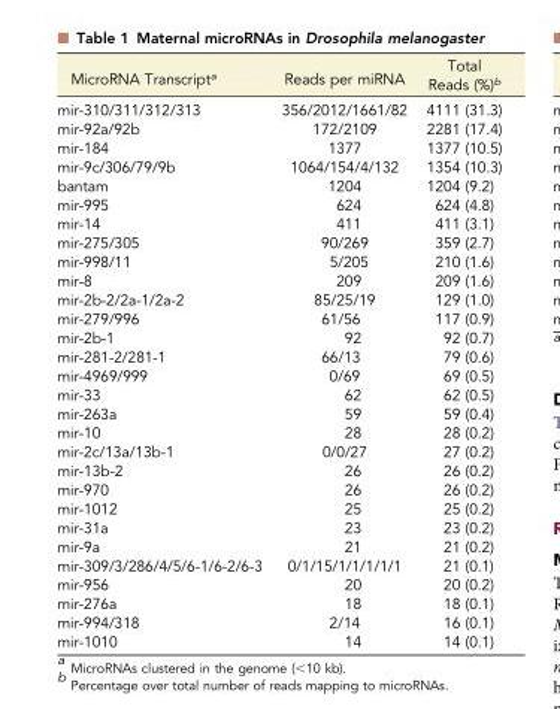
<table><thead><tr><td>MicroRNA Transcript<sup>a</sup></td><td>Reads per miRNA</td><td>Total Reads (%)<sup>b</sup></td></tr></thead><tbody><tr><td>mir-310/311/312/313</td><td>356/2012/1661/82</td><td>4111 (31.3)</td></tr><tr><td>mir-92a/92b</td><td>172/2109</td><td>2281 (17.4)</td></tr><tr><td>mir-184</td><td>1377</td><td>1377 (10.5)</td></tr><tr><td>mir-9c/306/79/9b</td><td>1064/154/4/132</td><td>1354 (10.3)</td></tr><tr><td>bantam</td><td>1204</td><td>1204 (9.2)</td></tr><tr><td>mir-995</td><td>624</td><td>624 (4.8)</td></tr><tr><td>mir-14</td><td>411</td><td>411 (3.1)</td></tr><tr><td>mir-275/305</td><td>90/269</td><td>359 (2.7)</td></tr><tr><td>mir-998/11</td><td>5/205</td><td>210 (1.6)</td></tr><tr><td>mir-8</td><td>209</td><td>209 (1.6)</td></tr><tr><td>mir-2b-2/2a-1/2a-2</td><td>85/25/19</td><td>129 (1.0)</td></tr><tr><td>mir-279/996</td><td>61/56</td><td>117 (0.9)</td></tr><tr><td>mir-2b-1</td><td>92</td><td>92 (0.7)</td></tr><tr><td>mir-281-2/281-1</td><td>66/13</td><td>79 (0.6)</td></tr><tr><td>mir-4969/999</td><td>0/69</td><td>69 (0.5)</td></tr><tr><td>mir-33</td><td>62</td><td>62 (0.5)</td></tr><tr><td>mir-263a</td><td>59</td><td>59 (0.4)</td></tr><tr><td>mir-10</td><td>28</td><td>28 (0.2)</td></tr><tr><td>mir-2c/13a/13b-1</td><td>0/0/27</td><td>27 (0.2)</td></tr><tr><td>mir-13b-2</td><td>26</td><td>26 (0.2)</td></tr><tr><td>mir-970</td><td>26</td><td>26 (0.2)</td></tr><tr><td>mir-1012</td><td>25</td><td>25 (0.2)</td></tr><tr><td>mir-31a</td><td>23</td><td>23 (0.2)</td></tr><tr><td>mir-9a</td><td>21</td><td>21 (0.2)</td></tr><tr><td>mir-309/3/286/4/5/6-1/6-2/6-3</td><td>0/1/15/1/1/1/1/1</td><td>21 (0.1)</td></tr><tr><td>mir-956</td><td>20</td><td>20 (0.2)</td></tr><tr><td>mir-276a</td><td>18</td><td>18 (0.1)</td></tr><tr><td>mir-994/318</td><td>2/14</td><td>16 (0.1)</td></tr><tr><td>mir-1010</td><td>14</td><td>14 (0.1)</td></tr></tbody></table>